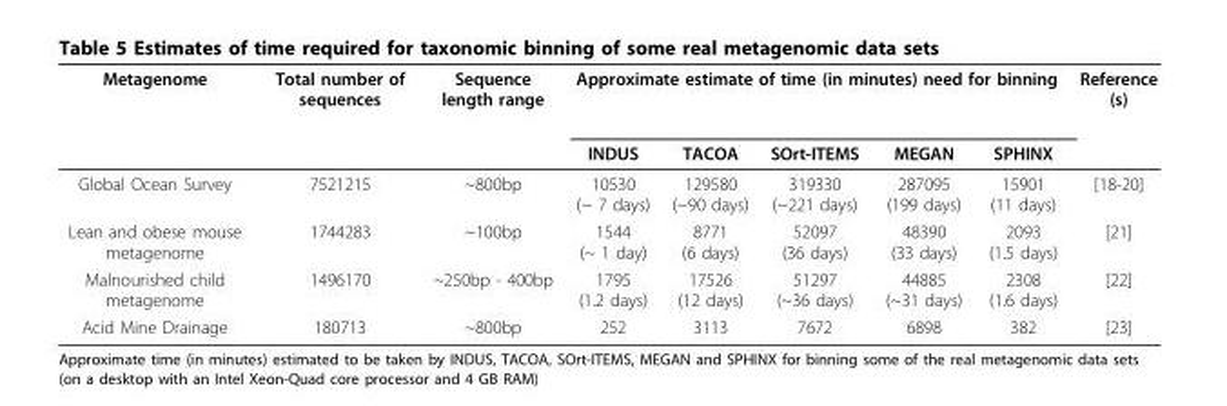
<table><thead><tr><td rowspan="2">Metagenome</td><td rowspan="2">Total number of sequences</td><td rowspan="2">Sequence length range</td><td colspan="5">Approximate estimate of time (in minutes) need for binning</td><td rowspan="2">Reference (s)</td></tr><tr><td>INDUS</td><td>TACOA</td><td>SOrt-ITEMS</td><td>MEGAN</td><td>SPHINX</td></tr></thead><tbody><tr><td>Global Ocean Survey</td><td>7521215</td><td>~800bp</td><td>10530 (~ 7 days)</td><td>129580 (~90 days)</td><td>319330 (~221 days)</td><td>287095 (199 days)</td><td>15901 (11 days)</td><td>[18-20]</td></tr><tr><td>Lean and obese mouse metagenome</td><td>1744283</td><td>~100bp</td><td>1544 (~ 1 day)</td><td>8771 (6 days)</td><td>52097 (36 days)</td><td>48390 (33 days)</td><td>2093 (1.5 days)</td><td>[21]</td></tr><tr><td>Malnourished child metagenome</td><td>1496170</td><td>~250bp - 400bp</td><td>1795 (1.2 days)</td><td>17526 (12 days)</td><td>51297 (~36 days)</td><td>44885 (~31 days)</td><td>2308 (1.6 days)</td><td>[22]</td></tr><tr><td>Acid Mine Drainage</td><td>180713</td><td>~800bp</td><td>252</td><td>3113</td><td>7672</td><td>6898</td><td>382</td><td>[23]</td></tr></tbody></table>